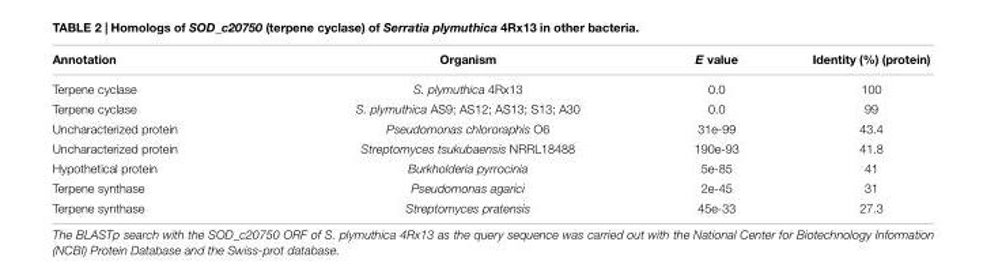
<table><thead><tr><td>Annotation</td><td>Organism</td><td>E value</td><td>Identity (%) (protein)</td></tr></thead><tbody><tr><td>Terpene cyclase</td><td>S. plymuthica 4Rx13</td><td>0.0</td><td>100</td></tr><tr><td>Terpene cyclase</td><td>S. plymuthica AS9; AS12; AS13; S13; A30</td><td>0.0</td><td>99</td></tr><tr><td>Uncharacterized protein</td><td>Pseudomonas chlororaphis O6</td><td>31e-99</td><td>43.4</td></tr><tr><td>Uncharacterized protein</td><td>Streptomyces tsukubaensis NRRL18488</td><td>190e-93</td><td>41.8</td></tr><tr><td>Hypothetical protein</td><td>Burkholderia pyrrocinia</td><td>5e-85</td><td>41</td></tr><tr><td>Terpene synthase</td><td>Pseudomonas agarici</td><td>2e-45</td><td>31</td></tr><tr><td>Terpene synthase</td><td>Streptomyces pratensis</td><td>45e-33</td><td>27.3</td></tr></tbody></table>